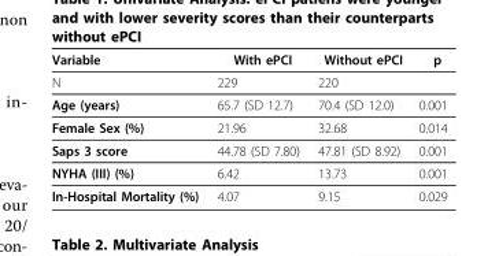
<table><thead><tr><td>Variable</td><td>With ePCI</td><td>Without ePCI</td><td>p</td></tr></thead><tbody><tr><td>N</td><td>229</td><td>220</td><td></td></tr><tr><td>Age (years)</td><td>65.7 (SD 12.7)</td><td>70.4 (SD 12.0)</td><td>0.001</td></tr><tr><td>Female Sex (%)</td><td>21.96</td><td>32.68</td><td>0.014</td></tr><tr><td>Saps 3 score</td><td>44.78 (SD 7.80)</td><td>47.81 (SD 8.92)</td><td>0.001</td></tr><tr><td>NYHA (III) (%)</td><td>6.42</td><td>13.73</td><td>0.001</td></tr><tr><td>In-Hospital Mortality (%)</td><td>4.07</td><td>9.15</td><td>0.029</td></tr></tbody></table>